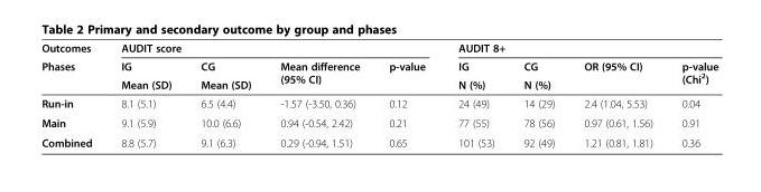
<table><thead><tr><td rowspan="3">Outcomes Phases</td><td colspan="4">AUDIT score</td><td colspan="4">AUDIT 8+</td></tr><tr><td rowspan="2">IG Mean (SD)</td><td rowspan="2">CG Mean (SD)</td><td rowspan="2">Mean difference (95% CI)</td><td rowspan="2">p-value</td><td rowspan="2">IG N (%)</td><td rowspan="2">CG N (%)</td><td rowspan="2">OR (95% CI)</td><td rowspan="2">p-value (Chi<sup>2</sup>)</td></tr><tr></tr></thead><tbody><tr><td>Run-in</td><td>8.1 (5.1)</td><td>6.5 (4.4)</td><td>-1.57 (-3.50, 0.36)</td><td>0.12</td><td>24 (49)</td><td>14 (29)</td><td>2.4 (1.04, 5.53)</td><td>0.04</td></tr><tr><td>Main</td><td>9.1 (5.9)</td><td>10.0 (6.6)</td><td>0.94 (-0.54, 2.42)</td><td>0.21</td><td>77 (55)</td><td>78 (56)</td><td>0.97 (0.61, 1.56)</td><td>0.91</td></tr><tr><td>Combined</td><td>8.8 (5.7)</td><td>9.1 (6.3)</td><td>0.29 (-0.94, 1.51)</td><td>0.65</td><td>101 (53)</td><td>92 (49)</td><td>1.21 (0.81, 1.81)</td><td>0.36</td></tr></tbody></table>